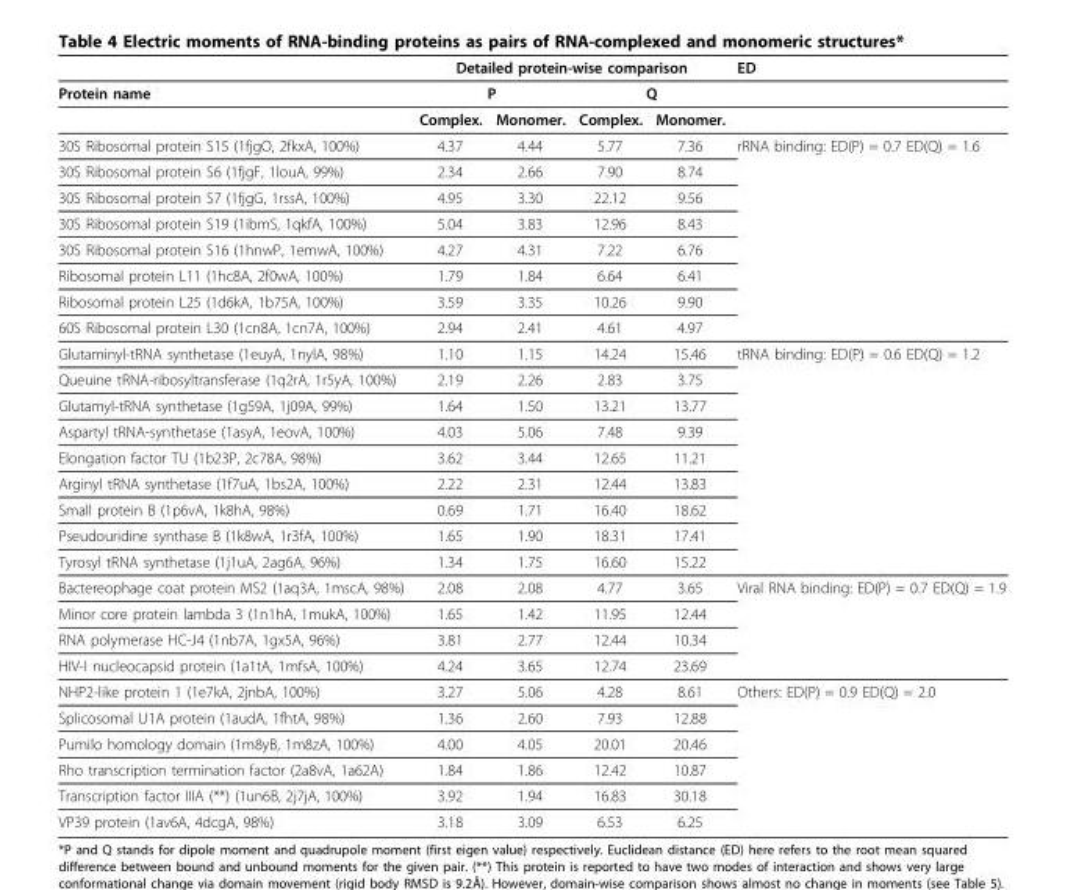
<table><thead><tr><td rowspan="3">Protein name</td><td colspan="4">Detailed protein-wise comparison</td><td rowspan="3">ED</td></tr><tr><td colspan="2">P</td><td colspan="2">Q</td></tr><tr><td>Complex.</td><td>Monomer.</td><td>Complex.</td><td>Monomer.</td></tr></thead><tbody><tr><td>30S Ribosomal protein S15 (1fjgO, 2fkxA, 100%)</td><td>4.37</td><td>4.44</td><td>5.77</td><td>7.36</td><td>rRNA binding: ED(P) = 0.7 ED(Q) = 1.6</td></tr><tr><td>30S Ribosomal protein S6 (1fjgF, 1louA, 99%)</td><td>2.34</td><td>2.66</td><td>7.90</td><td>8.74</td><td></td></tr><tr><td>30S Ribosomal protein S7 (1fjgG, 1rssA, 100%)</td><td>4.95</td><td>3.30</td><td>22.12</td><td>9.56</td><td></td></tr><tr><td>30S Ribosomal protein S19 (1ibmS, 1qkfA, 100%)</td><td>5.04</td><td>3.83</td><td>12.96</td><td>8.43</td><td></td></tr><tr><td>30S Ribosomal protein S16 (1hnwP, 1emwA, 100%)</td><td>4.27</td><td>4.31</td><td>7.22</td><td>6.76</td><td></td></tr><tr><td>Ribosomal protein L11 (1hc8A, 2f0wA, 100%)</td><td>1.79</td><td>1.84</td><td>6.64</td><td>6.41</td><td></td></tr><tr><td>Ribosomal protein L25 (1d6kA, 1b75A, 100%)</td><td>3.59</td><td>3.35</td><td>10.26</td><td>9.90</td><td></td></tr><tr><td>60S Ribosomal protein L30 (1cn8A, 1cn7A, 100%)</td><td>2.94</td><td>2.41</td><td>4.61</td><td>4.97</td><td></td></tr><tr><td>Glutaminyl-tRNA synthetase (1euyA, 1nylA, 98%)</td><td>1.10</td><td>1.15</td><td>14.24</td><td>15.46</td><td>tRNA binding: ED(P) = 0.6 ED(Q) = 1.2</td></tr><tr><td>Queuine tRNA-ribosyltransferase (1q2rA, 1r5yA, 100%)</td><td>2.19</td><td>2.26</td><td>2.83</td><td>3.75</td><td></td></tr><tr><td>Glutamyl-tRNA synthetase (1g59A, 1j09A, 99%)</td><td>1.64</td><td>1.50</td><td>13.21</td><td>13.77</td><td></td></tr><tr><td>Aspartyl tRNA-synthetase (1asyA, 1eovA, 100%)</td><td>4.03</td><td>5.06</td><td>7.48</td><td>9.39</td><td></td></tr><tr><td>Elongation factor TU (1b23P, 2c78A, 98%)</td><td>3.62</td><td>3.44</td><td>12.65</td><td>11.21</td><td></td></tr><tr><td>Arginyl tRNA synthetase (1f7uA, 1bs2A, 100%)</td><td>2.22</td><td>2.31</td><td>12.44</td><td>13.83</td><td></td></tr><tr><td>Small protein B (1p6vA, 1k8hA, 98%)</td><td>0.69</td><td>1.71</td><td>16.40</td><td>18.62</td><td></td></tr><tr><td>Pseudouridine synthase B (1k8wA, 1r3fA, 100%)</td><td>1.65</td><td>1.90</td><td>18.31</td><td>17.41</td><td></td></tr><tr><td>Tyrosyl tRNA synthetase (1j1uA, 2ag6A, 96%)</td><td>1.34</td><td>1.75</td><td>16.60</td><td>15.22</td><td></td></tr><tr><td>Bactereophage coat protein MS2 (1aq3A, 1mscA, 98%)</td><td>2.08</td><td>2.08</td><td>4.77</td><td>3.65</td><td>Viral RNA binding: ED(P) = 0.7 ED(Q) = 1.9</td></tr><tr><td>Minor core protein lambda 3 (1n1hA, 1mukA, 100%)</td><td>1.65</td><td>1.42</td><td>11.95</td><td>12.44</td><td></td></tr><tr><td>RNA polymerase HC-J4 (1nb7A, 1gx5A, 96%)</td><td>3.81</td><td>2.77</td><td>12.44</td><td>10.34</td><td></td></tr><tr><td>HIV-I nucleocapsid protein (1a1tA, 1mfsA, 100%)</td><td>4.24</td><td>3.65</td><td>12.74</td><td>23.69</td><td></td></tr><tr><td>NHP2-like protein 1 (1e7kA, 2jnbA, 100%)</td><td>3.27</td><td>5.06</td><td>4.28</td><td>8.61</td><td>Others: ED(P) = 0.9 ED(Q) = 2.0</td></tr><tr><td>Splicosomal U1A protein (1audA, 1fhtA, 98%)</td><td>1.36</td><td>2.60</td><td>7.93</td><td>12.88</td><td></td></tr><tr><td>Pumilo homology domain (1m8yB, 1m8zA, 100%)</td><td>4.00</td><td>4.05</td><td>20.01</td><td>20.46</td><td></td></tr><tr><td>Rho transcription termination factor (2a8vA, 1a62A)</td><td>1.84</td><td>1.86</td><td>12.42</td><td>10.87</td><td></td></tr><tr><td>Transcription factor IIIA (**) (1un6B, 2j7jA, 100%)</td><td>3.92</td><td>1.94</td><td>16.83</td><td>30.18</td><td></td></tr><tr><td>VP39 protein (1av6A, 4dcgA, 98%)</td><td>3.18</td><td>3.09</td><td>6.53</td><td>6.25</td><td></td></tr></tbody></table>